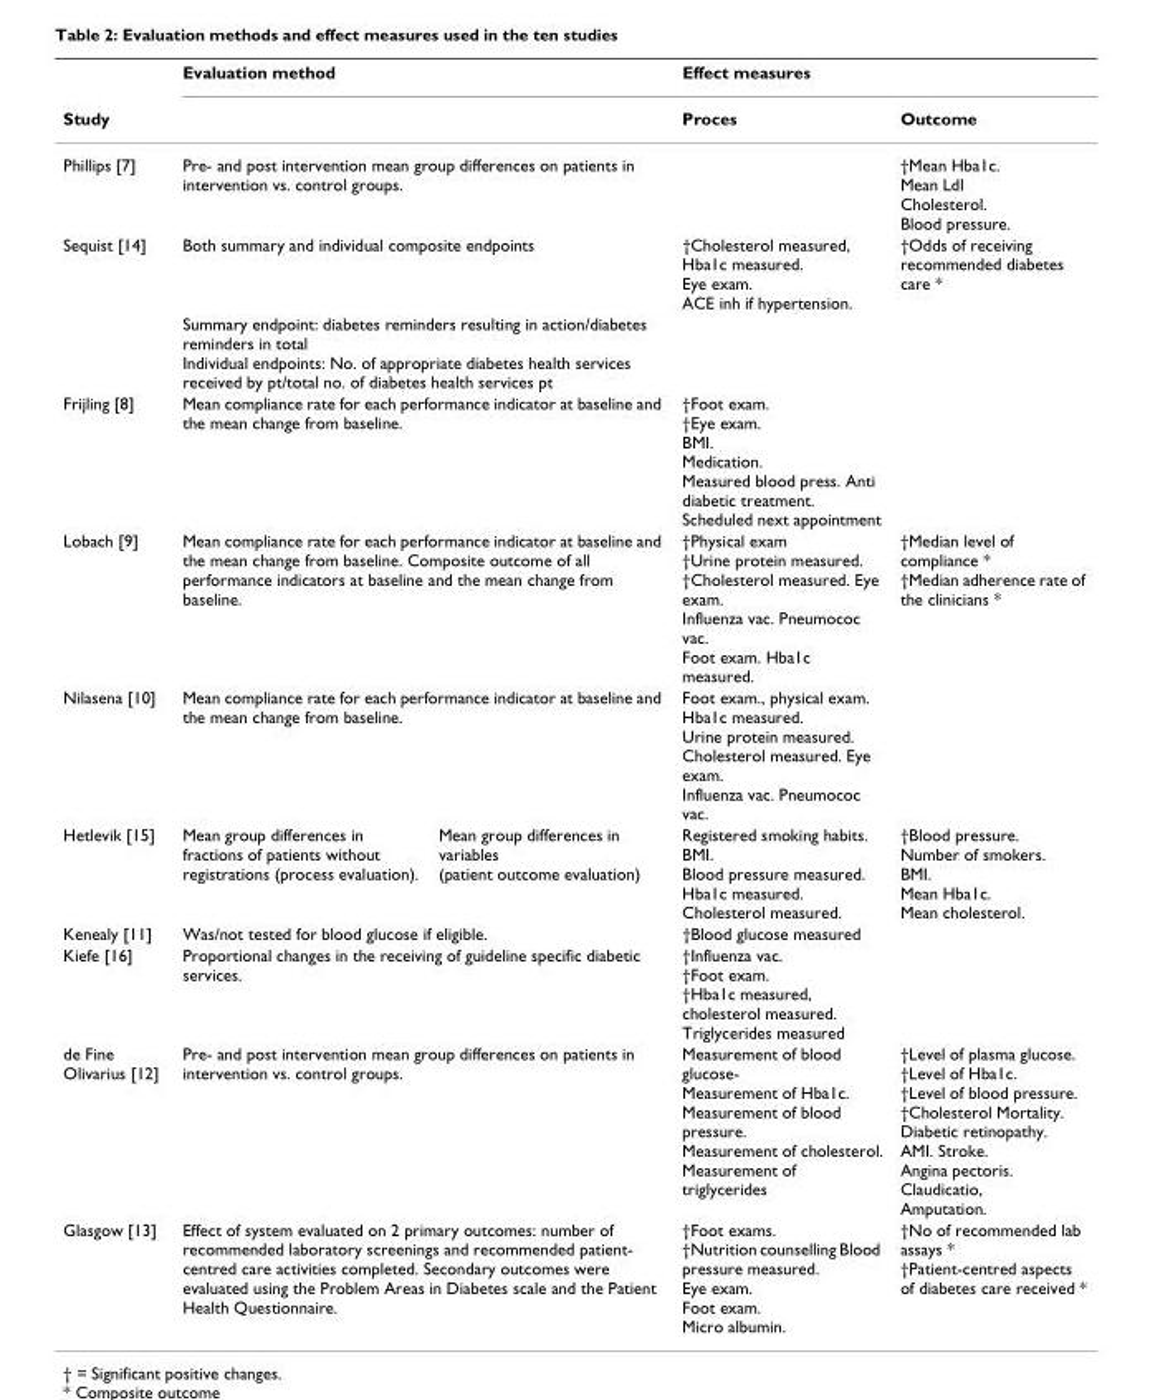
<table><thead><tr><td rowspan="2">Study</td><td colspan="2">Evaluation method</td><td rowspan="2">Effect measures Proces</td><td rowspan="2">Outcome</td></tr><tr><td></td><td></td></tr></thead><tbody><tr><td>Phillips [7]</td><td colspan="2">Pre- and post intervention mean group differences on patients in intervention vs. control groups.</td><td></td><td>†Mean Hba1c. Mean Ldl Cholesterol. Blood pressure.</td></tr><tr><td rowspan="2">Sequist [14]</td><td colspan="2">Both summary and individual composite endpoints</td><td>†Cholesterol measured, Hba1c measured. Eye exam. ACE inh if hypertension.</td><td>†Odds of receiving recommended diabetes care *</td></tr><tr><td colspan="2">Summary endpoint: diabetes reminders resulting in action/diabetes reminders in total Individual endpoints: No. of appropriate diabetes health services received by pt/total no. of diabetes health services pt</td><td></td><td></td></tr><tr><td>Frijling [8]</td><td colspan="2">Mean compliance rate for each performance indicator at baseline and the mean change from baseline.</td><td>†Foot exam. †Eye exam. BMI. Medication. Measured blood press. Anti diabetic treatment. Scheduled next appointment</td><td></td></tr><tr><td>Lobach [9]</td><td colspan="2">Mean compliance rate for each performance indicator at baseline and the mean change from baseline. Composite outcome of all performance indicators at baseline and the mean change from baseline.</td><td>†Physical exam †Urine protein measured. †Cholesterol measured. Eye exam. Influenza vac. Pneumococ vac. Foot exam. Hba1c measured.</td><td>†Median level of compliance * †Median adherence rate of the clinicians *</td></tr><tr><td>Nilasena [10]</td><td colspan="2">Mean compliance rate for each performance indicator at baseline and the mean change from baseline.</td><td>Foot exam., physical exam. Hba1c measured. Urine protein measured. Cholesterol measured. Eye exam. Influenza vac. Pneumococ vac.</td><td></td></tr><tr><td>Hetlevik [15]</td><td>Mean group differences in fractions of patients without registrations (process evaluation).</td><td>Mean group differences in variables (patient outcome evaluation)</td><td>Registered smoking habits. BMI. Blood pressure measured. Hba1c measured. Cholesterol measured.</td><td>†Blood pressure. Number of smokers. BMI. Mean Hba1c. Mean cholesterol.</td></tr><tr><td>Kenealy [11]</td><td colspan="2">Was/not tested for blood glucose if eligible.</td><td>†Blood glucose measured</td><td></td></tr><tr><td>Kiefe [16]</td><td colspan="2">Proportional changes in the receiving of guideline specific diabetic services.</td><td>†Influenza vac. †Foot exam. †Hba1c measured, cholesterol measured. Triglycerides measured</td><td></td></tr><tr><td>de Fine Olivarius [12]</td><td colspan="2">Pre- and post intervention mean group differences on patients in intervention vs. control groups.</td><td>Measurement of blood glucose- Measurement of Hba1c. Measurement of blood pressure. Measurement of cholesterol. Measurement of triglycerides</td><td>†Level of plasma glucose. †Level of Hba1c. †Level of blood pressure. †Cholesterol Mortality. Diabetic retinopathy. AMI. Stroke. Angina pectoris. Claudicatio, Amputation.</td></tr><tr><td>Glasgow [13]</td><td colspan="2">Effect of system evaluated on 2 primary outcomes: number of recommended laboratory screenings and recommended patient- centred care activities completed. Secondary outcomes were evaluated using the Problem Areas in Diabetes scale and the Patient Health Questionnaire.</td><td>†Foot exams. †Nutrition counselling Blood pressure measured. Eye exam. Foot exam. Micro albumin.</td><td>†No of recommended lab assays * †Patient-centred aspects of diabetes care received *</td></tr></tbody></table>